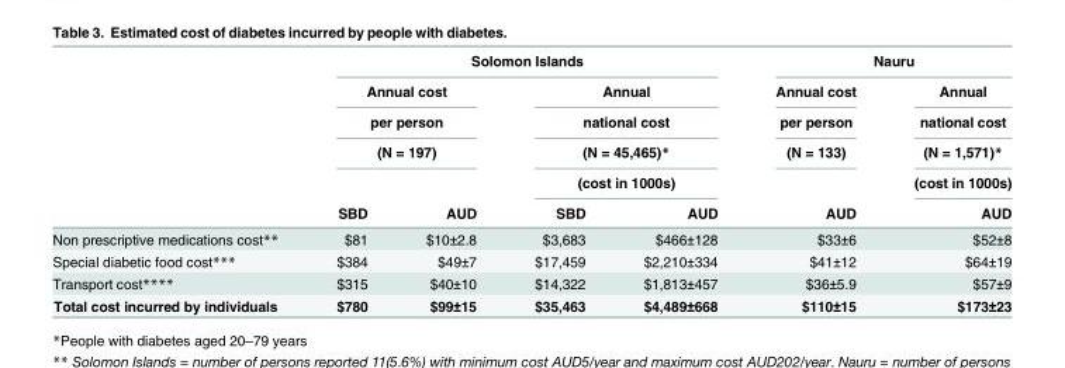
<table><thead><tr><td rowspan="6"></td><td colspan="3">Solomon Islands</td><td colspan="3">Nauru</td></tr><tr><td rowspan="3" colspan="2">Annual cost per person (N = 197)</td><td rowspan="4" colspan="2">Annual national cost (N = 45,465)* (cost in 1000s)</td><td rowspan="5">Annual cost per person (N = 133) AUD</td><td rowspan="5">Annual national cost (N = 1,571)* (cost in 1000s) AUD</td></tr><tr></tr><tr></tr><tr><td rowspan="2">SBD</td><td rowspan="2">AUD</td></tr><tr><td>SBD</td><td>AUD</td></tr></thead><tbody><tr><td>Non prescriptive medications cost**</td><td>$81</td><td>$10±2.8</td><td>$3,683</td><td>$466±128</td><td>$33±6</td><td>$52±8</td></tr><tr><td>Special diabetic food cost***</td><td>$384</td><td>$49±7</td><td>$17,459</td><td>$2,210±334</td><td>$41±12</td><td>$64±19</td></tr><tr><td>Transport cost****</td><td>$315</td><td>$40±10</td><td>$14,322</td><td>$1,813±457</td><td>$36±5.9</td><td>$57±9</td></tr><tr><td>Total cost incurred by individuals</td><td>$780</td><td>$99±15</td><td>$35,463</td><td>$4,489±668</td><td>$110±15</td><td>$173±23</td></tr></tbody></table>